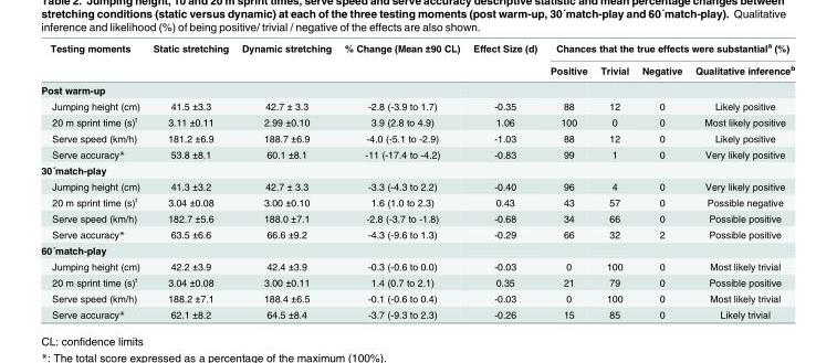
<table><thead><tr><td rowspan="2">Testing moments</td><td rowspan="2">Static stretching</td><td rowspan="2">Dynamic stretching</td><td rowspan="2">% Change (Mean ±90 CL)</td><td rowspan="2">Effect Size (d)</td><td colspan="4">Chances that the true effects were substantial<sup>a</sup> (%)</td></tr><tr><td>Positive</td><td>Trivial</td><td>Negative</td><td>Qualitative inference<sup>b</sup></td></tr></thead><tbody><tr><td colspan="9">Post warm-up</td></tr><tr><td>Jumping height (cm)</td><td>41.5 ±3.3</td><td>42.7 ± 3.3</td><td>-2.8 (-3.9 to 1.7)</td><td>-0.35</td><td>88</td><td>12</td><td>0</td><td>Likely positive</td></tr><tr><td>20 m sprint time (s)<sup>t</sup></td><td>3.11 ±0.11</td><td>2.99 ±0.10</td><td>3.9 (2.8 to 4.9)</td><td>1.06</td><td>100</td><td>0</td><td>0</td><td>Most likely positive</td></tr><tr><td>Serve speed (km/h)</td><td>181.2 ±6.9</td><td>188.7 ±6.9</td><td>-4.0 (-5.1 to -2.9)</td><td>-1.03</td><td>88</td><td>12</td><td>0</td><td>Likely positive</td></tr><tr><td>Serve accuracy*</td><td>53.8 ±8.1</td><td>60.1 ±8.1</td><td>-11 (-17.4 to -4.2)</td><td>-0.83</td><td>99</td><td>1</td><td>0</td><td>Very likely positive</td></tr><tr><td colspan="9">30´match-play</td></tr><tr><td>Jumping height (cm)</td><td>41.3 ±3.2</td><td>42.7 ± 3.3</td><td>-3.3 (-4.3 to 2.2)</td><td>-0.40</td><td>96</td><td>4</td><td>0</td><td>Very likely positive</td></tr><tr><td>20 m sprint time (s)<sup>t</sup></td><td>3.04 ±0.08</td><td>3.00 ±0.10</td><td>1.6 (1.0 to 2.3)</td><td>0.43</td><td>43</td><td>57</td><td>0</td><td>Possible negative</td></tr><tr><td>Serve speed (km/h)</td><td>182.7 ±5.6</td><td>188.0 ±7.1</td><td>-2.8 (-3.7 to -1.8)</td><td>-0.68</td><td>34</td><td>66</td><td>0</td><td>Possible positive</td></tr><tr><td>Serve accuracy*</td><td>63.5 ±6.6</td><td>66.6 ±9.2</td><td>-4.3 (-9.6 to 1.3)</td><td>-0.29</td><td>66</td><td>32</td><td>2</td><td>Possible positive</td></tr><tr><td colspan="9">60´match-play</td></tr><tr><td>Jumping height (cm)</td><td>42.2 ±3.9</td><td>42.4 ±3.9</td><td>-0.3 (-0.6 to 0.0)</td><td>-0.03</td><td>0</td><td>100</td><td>0</td><td>Most likely trivial</td></tr><tr><td>20 m sprint time (s)<sup>t</sup></td><td>3.04 ±0.08</td><td>3.00 ±0.11</td><td>1.4 (0.7 to 2.1)</td><td>0.35</td><td>21</td><td>79</td><td>0</td><td>Possible positive</td></tr><tr><td>Serve speed (km/h)</td><td>188.2 ±7.1</td><td>188.4 ±6.5</td><td>-0.1 (-0.6 to 0.4)</td><td>-0.03</td><td>0</td><td>100</td><td>0</td><td>Most likely trivial</td></tr><tr><td>Serve accuracy*</td><td>62.1 ±8.2</td><td>64.5 ±8.4</td><td>-3.7 (-9.3 to 2.3)</td><td>-0.26</td><td>15</td><td>85</td><td>0</td><td>Likely trivial</td></tr></tbody></table>